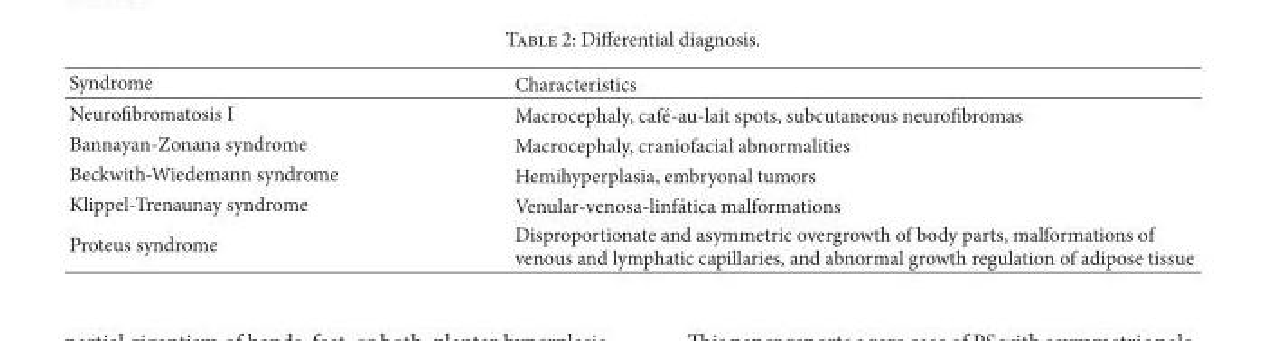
<table><thead><tr><td>Syndrome</td><td>Characteristics</td></tr></thead><tbody><tr><td>Neurofibromatosis I</td><td>Macrocephaly, caf´e-au-lait spots, subcutaneous neurofibromas</td></tr><tr><td>Bannayan-Zonana syndrome</td><td>Macrocephaly, craniofacial abnormalities</td></tr><tr><td>Beckwith-Wiedemann syndrome</td><td>Hemihyperplasia, embryonal tumors</td></tr><tr><td>Klippel-Trenaunay syndrome</td><td>Venular-venosa-linf´atica malformations</td></tr><tr><td>Proteus syndrome</td><td>Disproportionate and asymmetric overgrowth of body parts, malformations of venous and lymphatic capillaries, and abnormal growth regulation of adipose tissue</td></tr></tbody></table>